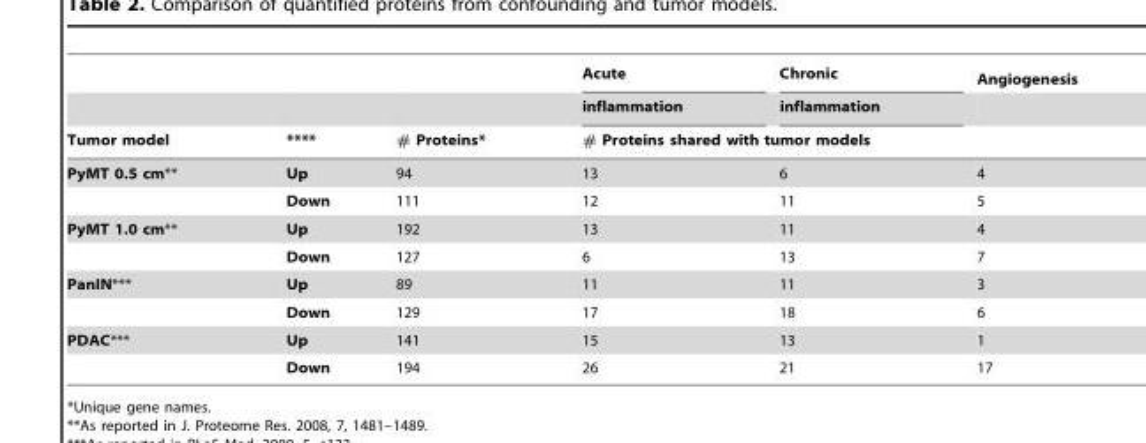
<table><thead><tr><td rowspan="3">Tumor model</td><td rowspan="3">****</td><td rowspan="3"># Proteins*</td><td rowspan="2">Acute inflammation</td><td rowspan="2">Chronic inflammation</td><td rowspan="2">Angiogenesis</td></tr><tr></tr><tr><td colspan="3"># Proteins shared with tumor models</td></tr></thead><tbody><tr><td rowspan="2">PyMT 0.5 cm**</td><td>Up</td><td>94</td><td>13</td><td>6</td><td>4</td></tr><tr><td>Down</td><td>111</td><td>12</td><td>11</td><td>5</td></tr><tr><td rowspan="2">PyMT 1.0 cm**</td><td>Up</td><td>192</td><td>13</td><td>11</td><td>4</td></tr><tr><td>Down</td><td>127</td><td>6</td><td>13</td><td>7</td></tr><tr><td rowspan="2">PanIN***</td><td>Up</td><td>89</td><td>11</td><td>11</td><td>3</td></tr><tr><td>Down</td><td>129</td><td>17</td><td>18</td><td>6</td></tr><tr><td rowspan="2">PDAC***</td><td>Up</td><td>141</td><td>15</td><td>13</td><td>1</td></tr><tr><td>Down</td><td>194</td><td>26</td><td>21</td><td>17</td></tr></tbody></table>